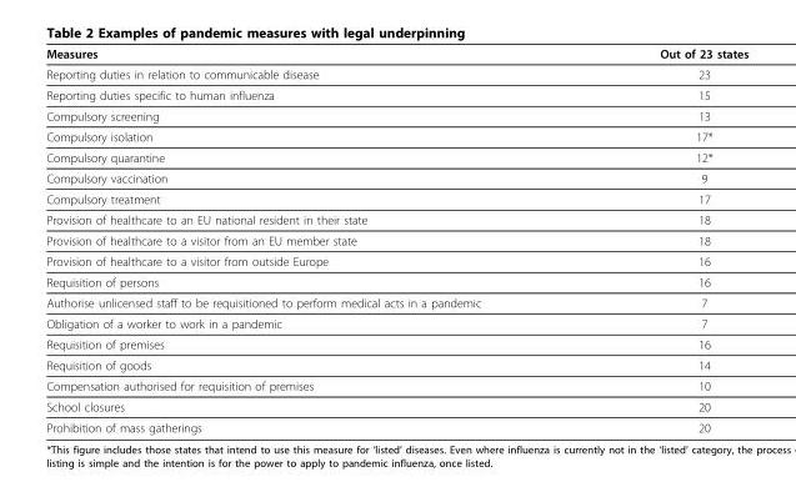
<table><thead><tr><td>Measures</td><td>Out of 23 states</td></tr></thead><tbody><tr><td>Reporting duties in relation to communicable disease</td><td>23</td></tr><tr><td>Reporting duties specific to human influenza</td><td>15</td></tr><tr><td>Compulsory screening</td><td>13</td></tr><tr><td>Compulsory isolation</td><td>17*</td></tr><tr><td>Compulsory quarantine</td><td>12*</td></tr><tr><td>Compulsory vaccination</td><td>9</td></tr><tr><td>Compulsory treatment</td><td>17</td></tr><tr><td>Provision of healthcare to an EU national resident in their state</td><td>18</td></tr><tr><td>Provision of healthcare to a visitor from an EU member state</td><td>18</td></tr><tr><td>Provision of healthcare to a visitor from outside Europe</td><td>16</td></tr><tr><td>Requisition of persons</td><td>16</td></tr><tr><td>Authorise unlicensed staff to be requisitioned to perform medical acts in a pandemic</td><td>7</td></tr><tr><td>Obligation of a worker to work in a pandemic</td><td>7</td></tr><tr><td>Requisition of premises</td><td>16</td></tr><tr><td>Requisition of goods</td><td>14</td></tr><tr><td>Compensation authorised for requisition of premises</td><td>10</td></tr><tr><td>School closures</td><td>20</td></tr><tr><td>Prohibition of mass gatherings</td><td>20</td></tr></tbody></table>